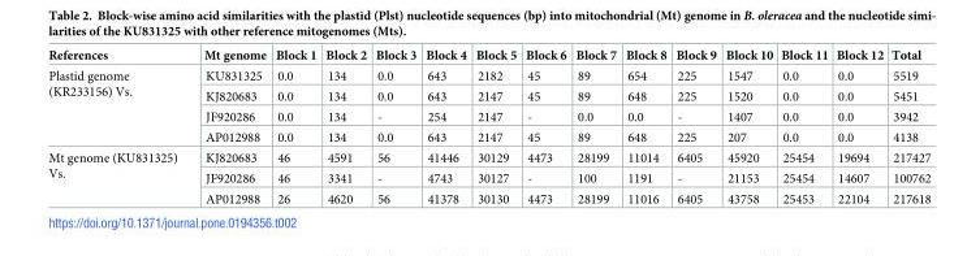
<table><thead><tr><td>References</td><td>Mt genome</td><td>Block 1</td><td>Block 2</td><td>Block 3</td><td>Block 4</td><td>Block 5</td><td>Block 6</td><td>Block 7</td><td>Block 8</td><td>Block 9</td><td>Block 10</td><td>Block 11</td><td>Block 12</td><td>Total</td></tr></thead><tbody><tr><td rowspan="4">Plastid genome (KR233156) Vs.</td><td>KU831325</td><td>0.0</td><td>134</td><td>0.0</td><td>643</td><td>2182</td><td>45</td><td>89</td><td>654</td><td>225</td><td>1547</td><td>0.0</td><td>0.0</td><td>5519</td></tr><tr><td>KJ820683</td><td>0.0</td><td>134</td><td>0.0</td><td>643</td><td>2147</td><td>45</td><td>89</td><td>648</td><td>225</td><td>1520</td><td>0.0</td><td>0.0</td><td>5451</td></tr><tr><td>JF920286</td><td>0.0</td><td>134</td><td>-</td><td>254</td><td>2147</td><td>-</td><td>0.0</td><td>0.0</td><td>-</td><td>1407</td><td>0.0</td><td>0.0</td><td>3942</td></tr><tr><td>AP012988</td><td>0.0</td><td>134</td><td>0.0</td><td>643</td><td>2147</td><td>45</td><td>89</td><td>648</td><td>225</td><td>207</td><td>0.0</td><td>0.0</td><td>4138</td></tr><tr><td rowspan="3">Mt genome (KU831325) Vs.</td><td>KJ820683</td><td>46</td><td>4591</td><td>56</td><td>41446</td><td>30129</td><td>4473</td><td>28199</td><td>11014</td><td>6405</td><td>45920</td><td>25454</td><td>19694</td><td>217427</td></tr><tr><td>JF920286</td><td>46</td><td>3341</td><td>-</td><td>4743</td><td>30127</td><td>-</td><td>100</td><td>1191</td><td>-</td><td>21153</td><td>25454</td><td>14607</td><td>100762</td></tr><tr><td>AP012988</td><td>26</td><td>4620</td><td>56</td><td>41378</td><td>30130</td><td>4473</td><td>28199</td><td>11016</td><td>6405</td><td>43758</td><td>25453</td><td>22104</td><td>217618</td></tr></tbody></table>